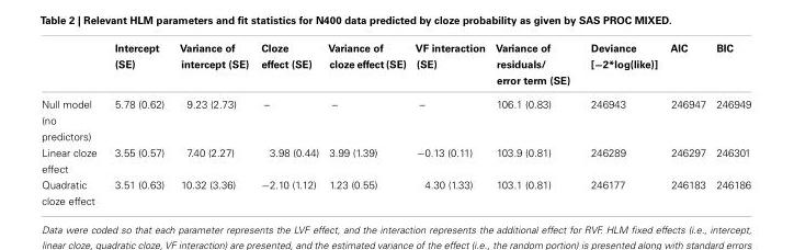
<table><thead><tr><td></td><td>Intercept (SE)</td><td>Variance of intercept (SE)</td><td>Cloze effect (SE)</td><td>Variance of cloze effect (SE)</td><td>VF interaction (SE)</td><td>Variance of residuals/ error term (SE)</td><td>Deviance [−2*log(like)]</td><td>AIC</td><td>BIC</td></tr></thead><tbody><tr><td>Null model (no predictors)</td><td>5.78 (0.62)</td><td>9.23 (2.73)</td><td>–</td><td>–</td><td>–</td><td>106.1 (0.83)</td><td>246943</td><td>246947</td><td>246949</td></tr><tr><td>Linear cloze effect</td><td>3.55 (0.57)</td><td>7.40 (2.27)</td><td>3.98 (0.44)</td><td>3.99 (1.39)</td><td>−0.13 (0.11)</td><td>103.9 (0.81)</td><td>246289</td><td>246297</td><td>246301</td></tr><tr><td>Quadratic cloze effect</td><td>3.51 (0.63)</td><td>10.32 (3.36)</td><td>−2.10 (1.12)</td><td>1.23 (0.55)</td><td>4.30 (1.33)</td><td>103.1 (0.81)</td><td>246177</td><td>246183</td><td>246186</td></tr></tbody></table>